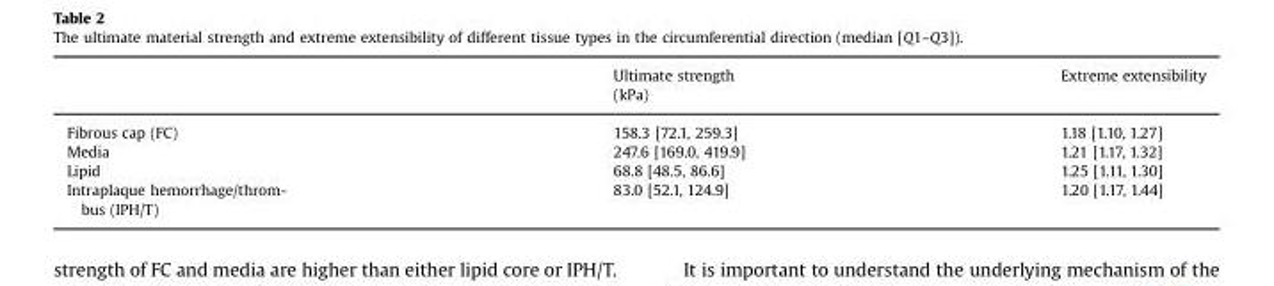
<table><thead><tr><td></td><td>Ultimate strength (kPa)</td><td>Extreme extensibility</td></tr></thead><tbody><tr><td>Fibrous cap (FC)</td><td>158.3 [72.1, 259.3]</td><td>1.18 [1.10, 1.27]</td></tr><tr><td>Media</td><td>247.6 [169.0, 419.9]</td><td>1.21 [1.17, 1.32]</td></tr><tr><td>Lipid</td><td>68.8 [48.5, 86.6]</td><td>1.25 [1.11, 1.30]</td></tr><tr><td>Intraplaque hemorrhage/throm- bus (IPH/T)</td><td>83.0 [52.1, 124.9]</td><td>1.20 [1.17, 1.44]</td></tr></tbody></table>